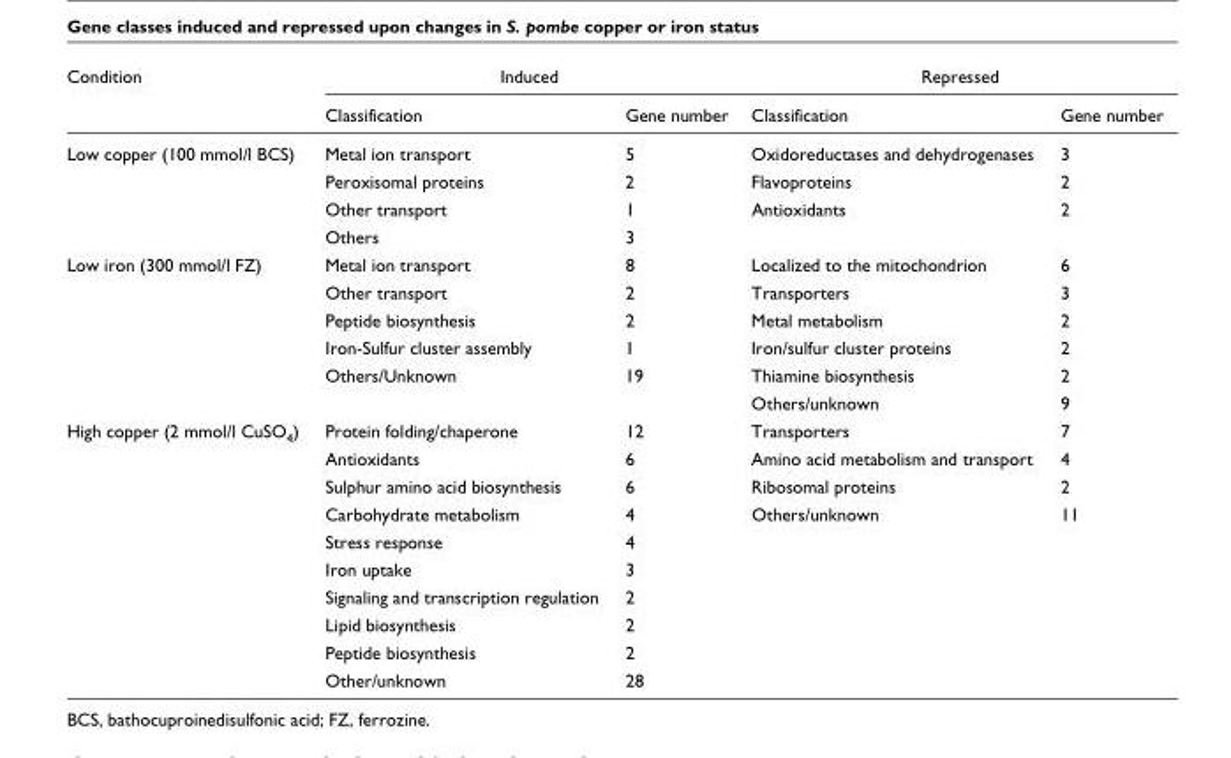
<table><thead><tr><td rowspan="2">Condition</td><td colspan="2">Induced</td><td colspan="2">Repressed</td></tr><tr><td>Classification</td><td>Gene number</td><td>Classification</td><td>Gene number</td></tr></thead><tbody><tr><td rowspan="4">Low copper (100 mmol/l BCS)</td><td>Metal ion transport</td><td>5</td><td>Oxidoreductases and dehydrogenases</td><td>3</td></tr><tr><td>Peroxisomal proteins</td><td>2</td><td>Flavoproteins</td><td>2</td></tr><tr><td>Other transport</td><td>1</td><td>Antioxidants</td><td>2</td></tr><tr><td>Others</td><td>3</td><td></td><td></td></tr><tr><td rowspan="6">Low iron (300 mmol/l FZ)</td><td>Metal ion transport</td><td>8</td><td>Localized to the mitochondrion</td><td>6</td></tr><tr><td>Other transport</td><td>2</td><td>Transporters</td><td>3</td></tr><tr><td>Peptide biosynthesis</td><td>2</td><td>Metal metabolism</td><td>2</td></tr><tr><td>Iron-Sulfur cluster assembly</td><td>1</td><td>Iron/sulfur cluster proteins</td><td>2</td></tr><tr><td>Others/Unknown</td><td>19</td><td>Thiamine biosynthesis</td><td>2</td></tr><tr><td></td><td></td><td>Others/unknown</td><td>9</td></tr><tr><td rowspan="10">High copper (2 mmol/l CuSO<sub>4</sub>)</td><td>Protein folding/chaperone</td><td>12</td><td>Transporters</td><td>7</td></tr><tr><td>Antioxidants</td><td>6</td><td>Amino acid metabolism and transport</td><td>4</td></tr><tr><td>Sulphur amino acid biosynthesis</td><td>6</td><td>Ribosomal proteins</td><td>2</td></tr><tr><td>Carbohydrate metabolism</td><td>4</td><td>Others/unknown</td><td>11</td></tr><tr><td>Stress response</td><td>4</td><td></td><td></td></tr><tr><td>Iron uptake</td><td>3</td><td></td><td></td></tr><tr><td>Signaling and transcription regulation</td><td>2</td><td></td><td></td></tr><tr><td>Lipid biosynthesis</td><td>2</td><td></td><td></td></tr><tr><td>Peptide biosynthesis</td><td>2</td><td></td><td></td></tr><tr><td>Other/unknown</td><td>28</td><td></td><td></td></tr></tbody></table>